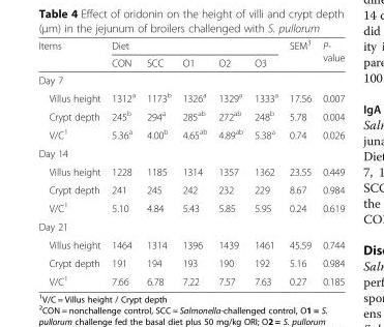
<table><thead><tr><td rowspan="2">Items</td><td colspan="5">Diet</td><td rowspan="2">SEM<sup>3</sup></td><td rowspan="2">P- value</td></tr><tr><td>CON</td><td>SCC</td><td>O1</td><td>O2</td><td>O3</td></tr></thead><tbody><tr><td colspan="8">Day 7</td></tr><tr><td>Villus height</td><td>1312<sup>a</sup></td><td>1173<sup>b</sup></td><td>1326<sup>a</sup></td><td>1329<sup>a</sup></td><td>1333<sup>a</sup></td><td>17.56</td><td>0.007</td></tr><tr><td>Crypt depth</td><td>245<sup>b</sup></td><td>294<sup>a</sup></td><td>285<sup>ab</sup></td><td>272<sup>ab</sup></td><td>248<sup>b</sup></td><td>5.78</td><td>0.004</td></tr><tr><td>V/C<sup>1</sup></td><td>5.36<sup>a</sup></td><td>4.00<sup>b</sup></td><td>4.65<sup>ab</sup></td><td>4.89<sup>ab</sup></td><td>5.38<sup>a</sup></td><td>0.74</td><td>0.026</td></tr><tr><td colspan="8">Day 14</td></tr><tr><td>Villus height</td><td>1228</td><td>1185</td><td>1314</td><td>1357</td><td>1362</td><td>23.55</td><td>0.449</td></tr><tr><td>Crypt depth</td><td>241</td><td>245</td><td>242</td><td>232</td><td>229</td><td>8.67</td><td>0.984</td></tr><tr><td>V/C<sup>1</sup></td><td>5.10</td><td>4.84</td><td>5.43</td><td>5.85</td><td>5.95</td><td>0.24</td><td>0.619</td></tr><tr><td colspan="8">Day 21</td></tr><tr><td>Villus height</td><td>1464</td><td>1314</td><td>1396</td><td>1439</td><td>1461</td><td>45.59</td><td>0.744</td></tr><tr><td>Crypt depth</td><td>191</td><td>194</td><td>193</td><td>190</td><td>192</td><td>5.16</td><td>0.984</td></tr><tr><td>V/C<sup>1</sup></td><td>7.66</td><td>6.78</td><td>7.22</td><td>7.57</td><td>7.63</td><td>0.27</td><td>0.185</td></tr></tbody></table>